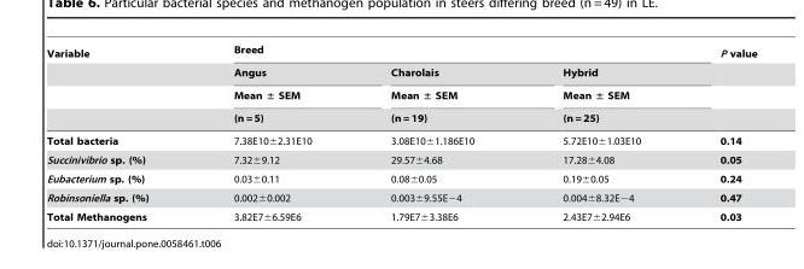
<table><thead><tr><td rowspan="4">Variable</td><td colspan="3">Breed</td><td rowspan="4">P value</td></tr><tr><td rowspan="3">Angus Mean ± SEM (n = 5)</td><td rowspan="3">Charolais Mean ± SEM (n = 19)</td><td rowspan="3">Hybrid Mean ± SEM (n = 25)</td></tr><tr></tr><tr></tr></thead><tbody><tr><td>Total bacteria</td><td>7.38E10±2.31E10</td><td>3.08E10±1.186E10</td><td>5.72E10±1.03E10</td><td>0.14</td></tr><tr><td>Succinivibrio sp. (%)</td><td>7.32±9.12</td><td>29.57±4.68</td><td>17.28±4.08</td><td>0.05</td></tr><tr><td>Eubacterium sp. (%)</td><td>0.03±0.11</td><td>0.08±0.05</td><td>0.19±0.05</td><td>0.24</td></tr><tr><td>Robinsoniella sp. (%)</td><td>0.002±0.002</td><td>0.003±9.55E−4</td><td>0.004±8.32E−4</td><td>0.47</td></tr><tr><td>Total Methanogens</td><td>3.82E7±6.59E6</td><td>1.79E7±3.38E6</td><td>2.43E7±2.94E6</td><td>0.03</td></tr></tbody></table>